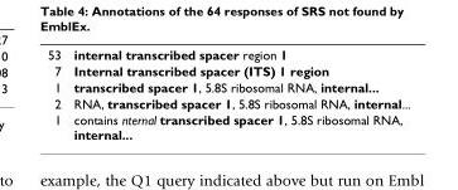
<table><tbody><tr><td>53</td><td>internal transcribed spacer region 1</td></tr><tr><td>7</td><td>Internal transcribed spacer (ITS) 1 region</td></tr><tr><td>1</td><td>transcribed spacer 1, 5.8S ribosomal RNA, internal...</td></tr><tr><td>2</td><td>RNA, transcribed spacer 1, 5.8S ribosomal RNA, internal...</td></tr><tr><td>1</td><td>contains nternal transcribed spacer 1, 5.8S ribosomal RNA, internal...</td></tr></tbody></table>